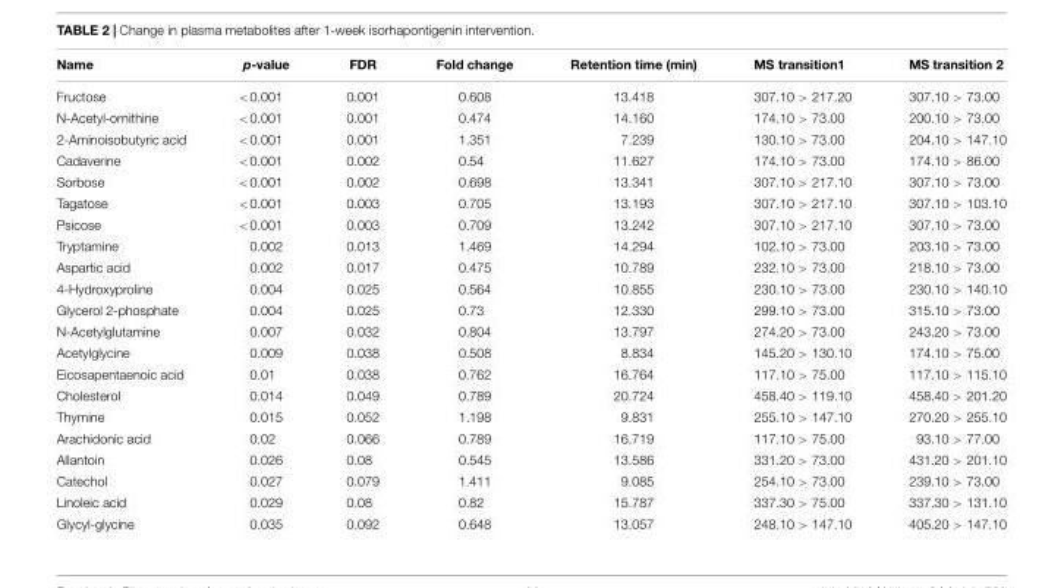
<table><thead><tr><td>Name</td><td>p-value</td><td>FDR</td><td>Fold change</td><td>Retention time (min)</td><td>MS transition1</td><td>MS transition 2</td></tr></thead><tbody><tr><td>Fructose</td><td>&lt;0.001</td><td>0.001</td><td>0.608</td><td>13.418</td><td>307.10 &gt; 217.20</td><td>307.10 &gt; 73.00</td></tr><tr><td>N-Acetyl-ornithine</td><td>&lt;0.001</td><td>0.001</td><td>0.474</td><td>14.160</td><td>174.10 &gt; 73.00</td><td>200.10 &gt; 73.00</td></tr><tr><td>2-Aminoisobutyric acid</td><td>&lt;0.001</td><td>0.001</td><td>1.351</td><td>7.239</td><td>130.10 &gt; 73.00</td><td>204.10 &gt; 147.10</td></tr><tr><td>Cadaverine</td><td>&lt;0.001</td><td>0.002</td><td>0.54</td><td>11.627</td><td>174.10 &gt; 73.00</td><td>174.10 &gt; 86.00</td></tr><tr><td>Sorbose</td><td>&lt;0.001</td><td>0.002</td><td>0.698</td><td>13.341</td><td>307.10 &gt; 217.10</td><td>307.10 &gt; 73.00</td></tr><tr><td>Tagatose</td><td>&lt;0.001</td><td>0.003</td><td>0.705</td><td>13.193</td><td>307.10 &gt; 217.10</td><td>307.10 &gt; 103.10</td></tr><tr><td>Psicose</td><td>&lt;0.001</td><td>0.003</td><td>0.709</td><td>13.242</td><td>307.10 &gt; 217.10</td><td>307.10 &gt; 73.00</td></tr><tr><td>Tryptamine</td><td>0.002</td><td>0.013</td><td>1.469</td><td>14.294</td><td>102.10 &gt; 73.00</td><td>203.10 &gt; 73.00</td></tr><tr><td>Aspartic acid</td><td>0.002</td><td>0.017</td><td>0.475</td><td>10.789</td><td>232.10 &gt; 73.00</td><td>218.10 &gt; 73.00</td></tr><tr><td>4-Hydroxyproline</td><td>0.004</td><td>0.025</td><td>0.564</td><td>10.855</td><td>230.10 &gt; 73.00</td><td>230.10 &gt; 140.10</td></tr><tr><td>Glycerol 2-phosphate</td><td>0.004</td><td>0.025</td><td>0.73</td><td>12.330</td><td>299.10 &gt; 73.00</td><td>315.10 &gt; 73.00</td></tr><tr><td>N-Acetylglutamine</td><td>0.007</td><td>0.032</td><td>0.804</td><td>13.797</td><td>274.20 &gt; 73.00</td><td>243.20 &gt; 73.00</td></tr><tr><td>Acetylglycine</td><td>0.009</td><td>0.038</td><td>0.508</td><td>8.834</td><td>145.20 &gt; 130.10</td><td>174.10 &gt; 75.00</td></tr><tr><td>Eicosapentaenoic acid</td><td>0.01</td><td>0.038</td><td>0.762</td><td>16.764</td><td>117.10 &gt; 75.00</td><td>117.10 &gt; 115.10</td></tr><tr><td>Cholesterol</td><td>0.014</td><td>0.049</td><td>0.789</td><td>20.724</td><td>458.40 &gt; 119.10</td><td>458.40 &gt; 201.20</td></tr><tr><td>Thymine</td><td>0.015</td><td>0.052</td><td>1.198</td><td>9.831</td><td>255.10 &gt; 147.10</td><td>270.20 &gt; 255.10</td></tr><tr><td>Arachidonic acid</td><td>0.02</td><td>0.066</td><td>0.789</td><td>16.719</td><td>117.10 &gt; 75.00</td><td>93.10 &gt; 77.00</td></tr><tr><td>Allantoin</td><td>0.026</td><td>0.08</td><td>0.545</td><td>13.586</td><td>331.20 &gt; 73.00</td><td>431.20 &gt; 201.10</td></tr><tr><td>Catechol</td><td>0.027</td><td>0.079</td><td>1.411</td><td>9.085</td><td>254.10 &gt; 73.00</td><td>239.10 &gt; 73.00</td></tr><tr><td>Linoleic acid</td><td>0.029</td><td>0.08</td><td>0.82</td><td>15.787</td><td>337.30 &gt; 75.00</td><td>337.30 &gt; 131.10</td></tr><tr><td>Glycyl-glycine</td><td>0.035</td><td>0.092</td><td>0.648</td><td>13.057</td><td>248.10 &gt; 147.10</td><td>405.20 &gt; 147.10</td></tr></tbody></table>